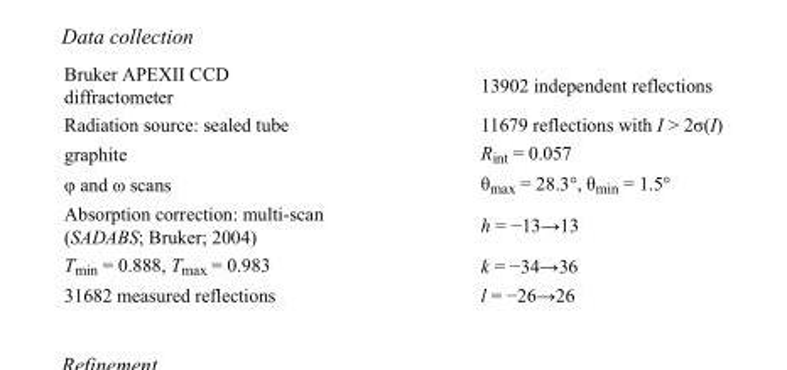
<table><tbody><tr><td>Bruker APEXII CCD diffractometer</td><td>13902 independent reflections</td></tr><tr><td>Radiation source: sealed tube</td><td>11679 reflections with I &gt; 2σ(I)</td></tr><tr><td>graphite</td><td>R<sub>int</sub> = 0.057</td></tr><tr><td>φ and ω scans</td><td>θ<sub>max</sub> = 28.3°, θ<sub>min</sub> = 1.5°</td></tr><tr><td>Absorption correction: multi-scan (SADABS; Bruker; 2004)</td><td>h = −13→13</td></tr><tr><td>T<sub>min</sub> = 0.888, T<sub>max</sub> = 0.983</td><td>k = −34→36</td></tr><tr><td>31682 measured reflections</td><td>l = −26→26</td></tr></tbody></table>